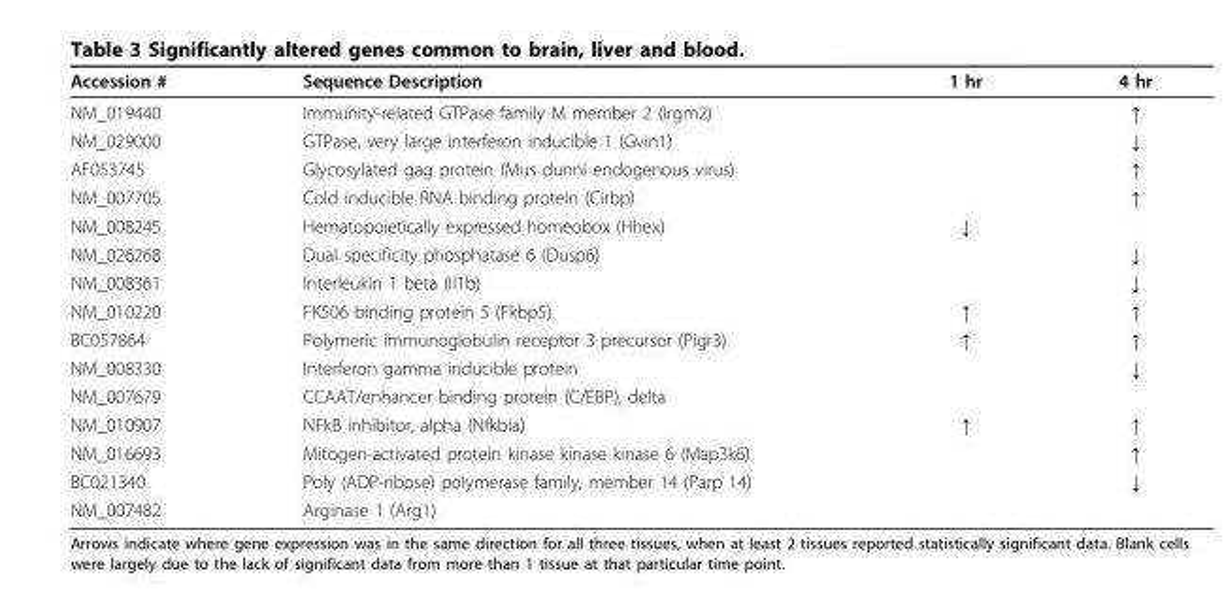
<table><thead><tr><td>Accession #</td><td>Sequence Description</td><td>1 hr</td><td>4 hr</td></tr></thead><tbody><tr><td>NM_019440</td><td>Immunity-related GTPase family M member 2 (Irgm2)</td><td></td><td>↑</td></tr><tr><td>NM_029000</td><td>GTPase, very large interferon inducible 1 (Gvin1)</td><td></td><td>↓</td></tr><tr><td>AF053745</td><td>Glycosylated gag protein (Mus dunni endogenous virus)</td><td></td><td>↑</td></tr><tr><td>NM_007705</td><td>Cold inducible RNA binding protein (Cirbp)</td><td></td><td>↑</td></tr><tr><td>NM_008245</td><td>Hematopoietically expressed homeobox (Hhex)</td><td>↓</td><td></td></tr><tr><td>NM_026268</td><td>Dual specificity phosphatase 6 (Dusp6)</td><td></td><td>↓</td></tr><tr><td>NM_008361</td><td>Interleukin 1 beta (Il1b)</td><td></td><td>↓</td></tr><tr><td>NM_010220</td><td>FK506 binding protein 5 (Fkbp5)</td><td>↑</td><td>↑</td></tr><tr><td>BC057864</td><td>Polymeric immunoglobulin receptor 3 precursor (Pigr3)</td><td>↑</td><td>↑</td></tr><tr><td>NM_008330</td><td>Interferon gamma inducible protein</td><td></td><td>↓</td></tr><tr><td>NM_007679</td><td>CCAAT/enhancer binding protein (C/EBP), delta</td><td></td><td></td></tr><tr><td>NM_010907</td><td>NFkB inhibitor, alpha (Nfkbia)</td><td>↑</td><td>↑</td></tr><tr><td>NM_016693</td><td>Mitogen-activated protein kinase kinase kinase 6 (Map3k6)</td><td></td><td>↑</td></tr><tr><td>BC021340</td><td>Poly (ADP-ribose) polymerase family, member 14 (Parp 14)</td><td></td><td>↓</td></tr><tr><td>NM_007482</td><td>Arginase 1 (Arg1)</td><td></td><td></td></tr></tbody></table>